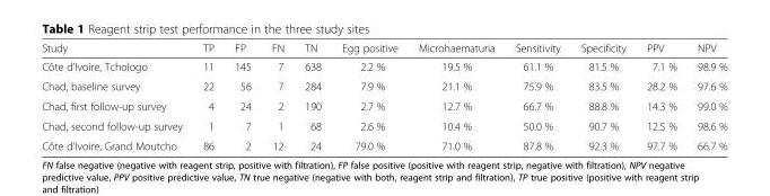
<table><thead><tr><td>Study</td><td>TP</td><td>FP</td><td>FN</td><td>TN</td><td>Egg positive</td><td>Microhaematuria</td><td>Sensitivity</td><td>Specificity</td><td>PPV</td><td>NPV</td></tr></thead><tbody><tr><td>Côte d’Ivoire, Tchologo</td><td>11</td><td>145</td><td>7</td><td>638</td><td>2.2 %</td><td>19.5 %</td><td>61.1 %</td><td>81.5 %</td><td>7.1 %</td><td>98.9 %</td></tr><tr><td>Chad, baseline survey</td><td>22</td><td>56</td><td>7</td><td>284</td><td>7.9 %</td><td>21.1 %</td><td>75.9 %</td><td>83.5 %</td><td>28.2 %</td><td>97.6 %</td></tr><tr><td>Chad, first follow-up survey</td><td>4</td><td>24</td><td>2</td><td>190</td><td>2.7 %</td><td>12.7 %</td><td>66.7 %</td><td>88.8 %</td><td>14.3 %</td><td>99.0 %</td></tr><tr><td>Chad, second follow-up survey</td><td>1</td><td>7</td><td>1</td><td>68</td><td>2.6 %</td><td>10.4 %</td><td>50.0 %</td><td>90.7 %</td><td>12.5 %</td><td>98.6 %</td></tr><tr><td>Côte d’Ivoire, Grand Moutcho</td><td>86</td><td>2</td><td>12</td><td>24</td><td>79.0 %</td><td>71.0 %</td><td>87.8 %</td><td>92.3 %</td><td>97.7 %</td><td>66.7 %</td></tr></tbody></table>